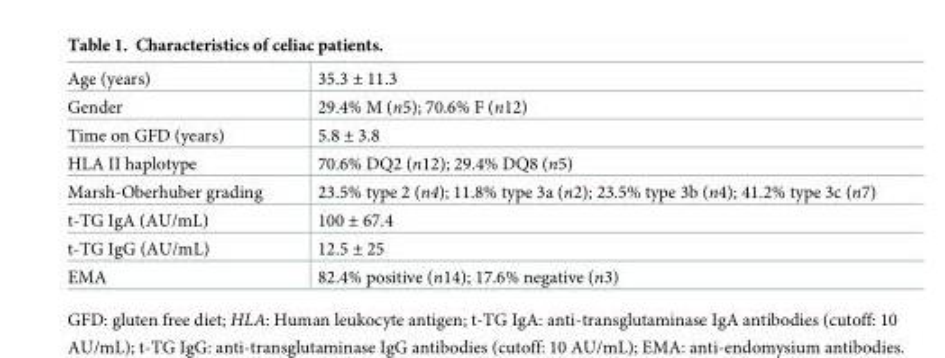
<table><tbody><tr><td>Age (years)</td><td>35.3 ± 11.3</td></tr><tr><td>Gender</td><td>29.4% M (n5); 70.6% F (n12)</td></tr><tr><td>Time on GFD (years)</td><td>5.8 ± 3.8</td></tr><tr><td>HLA II haplotype</td><td>70.6% DQ2 (n12); 29.4% DQ8 (n5)</td></tr><tr><td>Marsh-Oberhuber grading</td><td>23.5% type 2 (n4); 11.8% type 3a (n2); 23.5% type 3b (n4); 41.2% type 3c (n7)</td></tr><tr><td>t-TG IgA (AU/mL)</td><td>100 ± 67.4</td></tr><tr><td>t-TG IgG (AU/mL)</td><td>12.5 ± 25</td></tr><tr><td>EMA</td><td>82.4% positive (n14); 17.6% negative (n3)</td></tr></tbody></table>